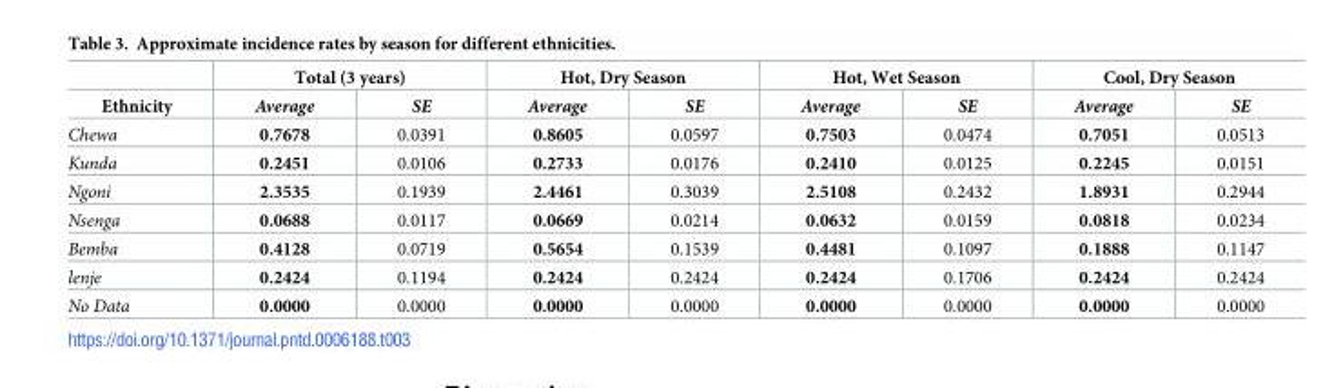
<table><thead><tr><td rowspan="2">Ethnicity</td><td colspan="2">Total (3 years)</td><td colspan="2">Hot, Dry Season</td><td colspan="2">Hot, Wet Season</td><td colspan="2">Cool, Dry Season</td></tr><tr><td>Average</td><td>SE</td><td>Average</td><td>SE</td><td>Average</td><td>SE</td><td>Average</td><td>SE</td></tr></thead><tbody><tr><td>Chewa</td><td>0.7678</td><td>0.0391</td><td>0.8605</td><td>0.0597</td><td>0.7503</td><td>0.0474</td><td>0.7051</td><td>0.0513</td></tr><tr><td>Kunda</td><td>0.2451</td><td>0.0106</td><td>0.2733</td><td>0.0176</td><td>0.2410</td><td>0.0125</td><td>0.2245</td><td>0.0151</td></tr><tr><td>Ngoni</td><td>2.3535</td><td>0.1939</td><td>2.4461</td><td>0.3039</td><td>2.5108</td><td>0.2432</td><td>1.8931</td><td>0.2944</td></tr><tr><td>Nsenga</td><td>0.0688</td><td>0.0117</td><td>0.0669</td><td>0.0214</td><td>0.0632</td><td>0.0159</td><td>0.0818</td><td>0.0234</td></tr><tr><td>Bemba</td><td>0.4128</td><td>0.0719</td><td>0.5654</td><td>0.1539</td><td>0.4481</td><td>0.1097</td><td>0.1888</td><td>0.1147</td></tr><tr><td>lenje</td><td>0.2424</td><td>0.1194</td><td>0.2424</td><td>0.2424</td><td>0.2424</td><td>0.1706</td><td>0.2424</td><td>0.2424</td></tr><tr><td>No Data</td><td>0.0000</td><td>0.0000</td><td>0.0000</td><td>0.0000</td><td>0.0000</td><td>0.0000</td><td>0.0000</td><td>0.0000</td></tr></tbody></table>